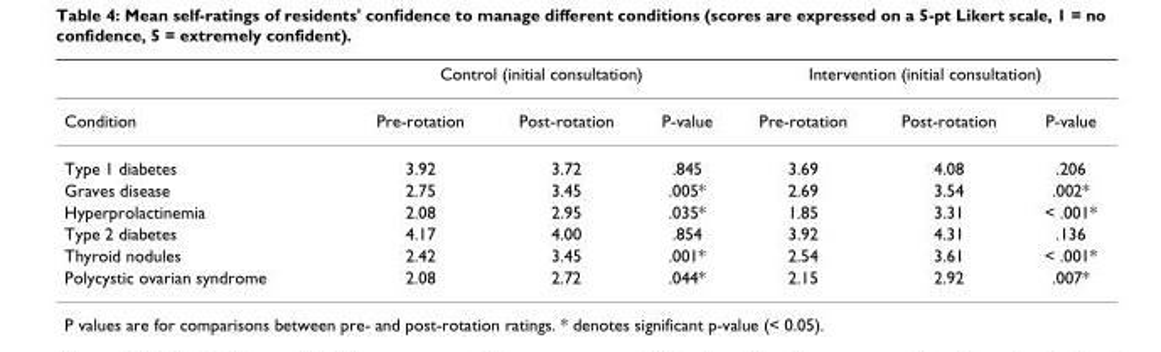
<table><thead><tr><td rowspan="2">Condition</td><td colspan="3">Control (initial consultation)</td><td colspan="3">Intervention (initial consultation)</td></tr><tr><td>Pre-rotation</td><td>Post-rotation</td><td>P-value</td><td>Pre-rotation</td><td>Post-rotation</td><td>P-value</td></tr></thead><tbody><tr><td>Type 1 diabetes</td><td>3.92</td><td>3.72</td><td>.845</td><td>3.69</td><td>4.08</td><td>.206</td></tr><tr><td>Graves disease</td><td>2.75</td><td>3.45</td><td>.005*</td><td>2.69</td><td>3.54</td><td>.002*</td></tr><tr><td>Hyperprolactinemia</td><td>2.08</td><td>2.95</td><td>.035*</td><td>1.85</td><td>3.31</td><td>&lt; .001*</td></tr><tr><td>Type 2 diabetes</td><td>4.17</td><td>4.00</td><td>.854</td><td>3.92</td><td>4.31</td><td>.136</td></tr><tr><td>Thyroid nodules</td><td>2.42</td><td>3.45</td><td>.001*</td><td>2.54</td><td>3.61</td><td>&lt; .001*</td></tr><tr><td>Polycystic ovarian syndrome</td><td>2.08</td><td>2.72</td><td>.044*</td><td>2.15</td><td>2.92</td><td>.007*</td></tr></tbody></table>